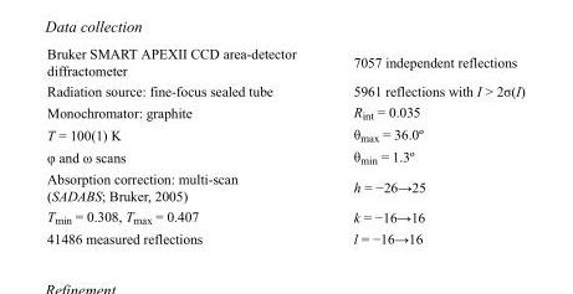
<table><tbody><tr><td>Bruker SMART APEXII CCD area-detector diffractometer</td><td>7057 independent reflections</td></tr><tr><td>Radiation source: fine-focus sealed tube</td><td>5961 reflections with I &gt; 2σ(I)</td></tr><tr><td>Monochromator: graphite</td><td>R<sub>int</sub> = 0.035</td></tr><tr><td>T = 100(1) K</td><td>θ<sub>max</sub> = 36.0º</td></tr><tr><td>φ and ω scans</td><td>θ<sub>min</sub> = 1.3º</td></tr><tr><td>Absorption correction: multi-scan (SADABS; Bruker, 2005)</td><td>h = −26→25</td></tr><tr><td>T<sub>min</sub> = 0.308, T<sub>max</sub> = 0.407</td><td>k = −16→16</td></tr><tr><td>41486 measured reflections</td><td>l = −16→16</td></tr></tbody></table>